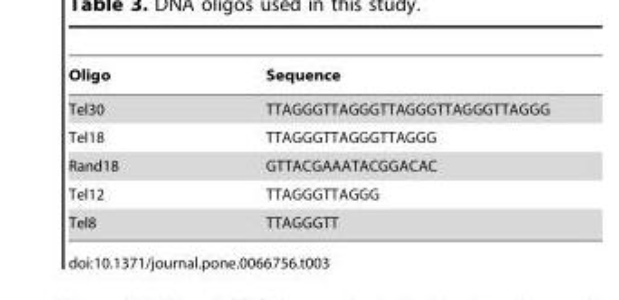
<table><thead><tr><td>Oligo</td><td>Sequence</td></tr></thead><tbody><tr><td>Tel30</td><td>TTAGGGTTAGGGTTAGGGTTAGGGTTAGGG</td></tr><tr><td>Tel18</td><td>TTAGGGTTAGGGTTAGGG</td></tr><tr><td>Rand18</td><td>GTTACGAAATACGGACAC</td></tr><tr><td>Tel12</td><td>TTAGGGTTAGGG</td></tr><tr><td>Tel8</td><td>TTAGGGTT</td></tr></tbody></table>